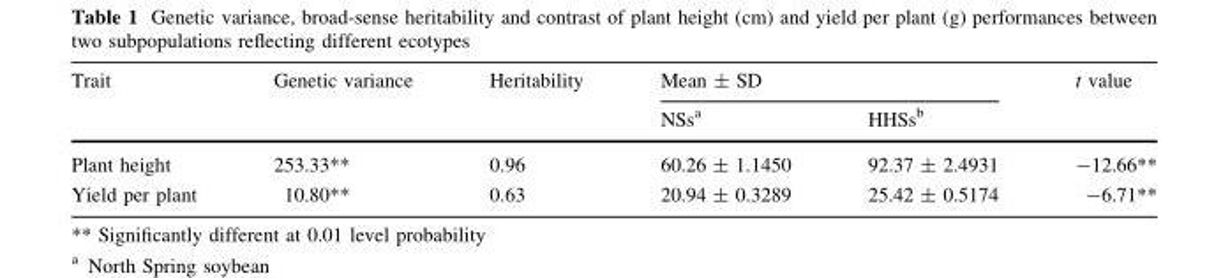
<table><thead><tr><td rowspan="2">Trait</td><td rowspan="2">Genetic variance</td><td rowspan="2">Heritability</td><td colspan="2">Mean ± SD</td><td rowspan="2">t value</td></tr><tr><td>NSs<sup>a</sup></td><td>HHSs<sup>b</sup></td></tr></thead><tbody><tr><td>Plant height</td><td>253.33**</td><td>0.96</td><td>60.26 ± 1.1450</td><td>92.37 ± 2.4931</td><td>-12.66**</td></tr><tr><td>Yield per plant</td><td>10.80**</td><td>0.63</td><td>20.94 ± 0.3289</td><td>25.42 ± 0.5174</td><td>-6.71**</td></tr></tbody></table>